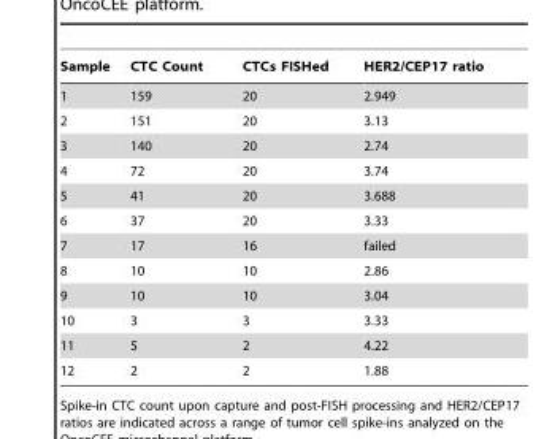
<table><thead><tr><td>Sample</td><td>CTC Count</td><td>CTCs FISHed</td><td>HER2/CEP17 ratio</td></tr></thead><tbody><tr><td>1</td><td>159</td><td>20</td><td>2.949</td></tr><tr><td>2</td><td>151</td><td>20</td><td>3.13</td></tr><tr><td>3</td><td>140</td><td>20</td><td>2.74</td></tr><tr><td>4</td><td>72</td><td>20</td><td>3.74</td></tr><tr><td>5</td><td>41</td><td>20</td><td>3.688</td></tr><tr><td>6</td><td>37</td><td>20</td><td>3.33</td></tr><tr><td>7</td><td>17</td><td>16</td><td>failed</td></tr><tr><td>8</td><td>10</td><td>10</td><td>2.86</td></tr><tr><td>9</td><td>10</td><td>10</td><td>3.04</td></tr><tr><td>10</td><td>3</td><td>3</td><td>3.33</td></tr><tr><td>11</td><td>5</td><td>2</td><td>4.22</td></tr><tr><td>12</td><td>2</td><td>2</td><td>1.88</td></tr></tbody></table>